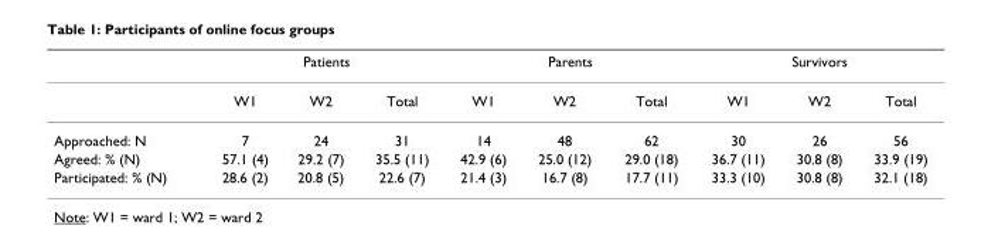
<table><thead><tr><td rowspan="2"></td><td colspan="3">Patients</td><td colspan="3">Parents</td><td colspan="3">Survivors</td></tr><tr><td>W1</td><td>W2</td><td>Total</td><td>W1</td><td>W2</td><td>Total</td><td>W1</td><td>W2</td><td>Total</td></tr></thead><tbody><tr><td>Approached: N</td><td>7</td><td>24</td><td>31</td><td>14</td><td>48</td><td>62</td><td>30</td><td>26</td><td>56</td></tr><tr><td>Agreed: % (N)</td><td>57.1 (4)</td><td>29.2 (7)</td><td>35.5 (11)</td><td>42.9 (6)</td><td>25.0 (12)</td><td>29.0 (18)</td><td>36.7 (11)</td><td>30.8 (8)</td><td>33.9 (19)</td></tr><tr><td>Participated: % (N)</td><td>28.6 (2)</td><td>20.8 (5)</td><td>22.6 (7)</td><td>21.4 (3)</td><td>16.7 (8)</td><td>17.7 (11)</td><td>33.3 (10)</td><td>30.8 (8)</td><td>32.1 (18)</td></tr></tbody></table>